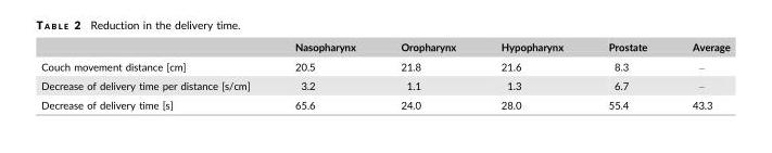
<table><thead><tr><td></td><td>Nasopharynx</td><td>Oropharynx</td><td>Hypopharynx</td><td>Prostate</td><td>Average</td></tr></thead><tbody><tr><td>Couch movement distance [cm]</td><td>20.5</td><td>21.8</td><td>21.6</td><td>8.3</td><td>–</td></tr><tr><td>Decrease of delivery time per distance [s/cm]</td><td>3.2</td><td>1.1</td><td>1.3</td><td>6.7</td><td>–</td></tr><tr><td>Decrease of delivery time [s]</td><td>65.6</td><td>24.0</td><td>28.0</td><td>55.4</td><td>43.3</td></tr></tbody></table>